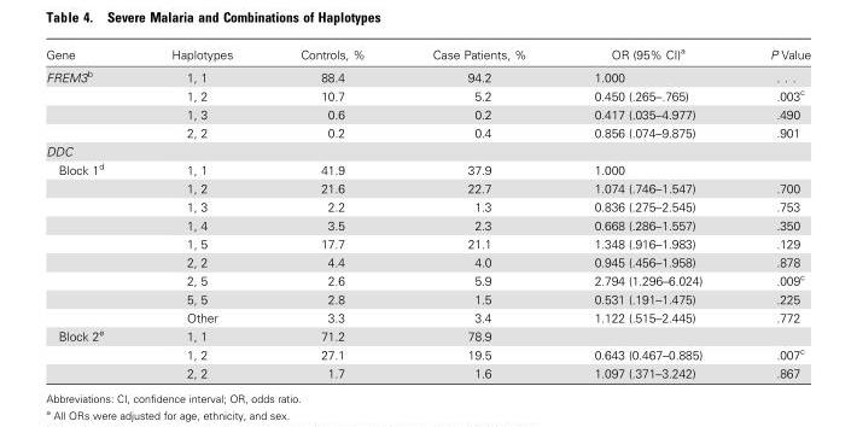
<table><thead><tr><td>Gene</td><td>Haplotypes</td><td>Controls, %</td><td>Case Patients, %</td><td>OR (95% CI)<sup>a</sup></td><td>P Value</td></tr></thead><tbody><tr><td rowspan="4">FREM3<sup>b</sup></td><td>1, 1</td><td>88.4</td><td>94.2</td><td>1.000</td><td>. . .</td></tr><tr><td>1, 2</td><td>10.7</td><td>5.2</td><td>0.450 (.265–.765)</td><td>.003<sup>c</sup></td></tr><tr><td>1, 3</td><td>0.6</td><td>0.2</td><td>0.417 (.035–4.977)</td><td>.490</td></tr><tr><td>2, 2</td><td>0.2</td><td>0.4</td><td>0.856 (.074–9.875)</td><td>.901</td></tr><tr><td colspan="6">DDC</td></tr><tr><td rowspan="9">Block 1<sup>d</sup></td><td>1, 1</td><td>41.9</td><td>37.9</td><td>1.000</td><td></td></tr><tr><td>1, 2</td><td>21.6</td><td>22.7</td><td>1.074 (.746–1.547)</td><td>.700</td></tr><tr><td>1, 3</td><td>2.2</td><td>1.3</td><td>0.836 (.275–2.545)</td><td>.753</td></tr><tr><td>1, 4</td><td>3.5</td><td>2.3</td><td>0.668 (.286–1.557)</td><td>.350</td></tr><tr><td>1, 5</td><td>17.7</td><td>21.1</td><td>1.348 (.916–1.983)</td><td>.129</td></tr><tr><td>2, 2</td><td>4.4</td><td>4.0</td><td>0.945 (.456–1.958)</td><td>.878</td></tr><tr><td>2, 5</td><td>2.6</td><td>5.9</td><td>2.794 (1.296–6.024)</td><td>.009<sup>c</sup></td></tr><tr><td>5, 5</td><td>2.8</td><td>1.5</td><td>0.531 (.191–1.475)</td><td>.225</td></tr><tr><td>Other</td><td>3.3</td><td>3.4</td><td>1.122 (.515–2.445)</td><td>.772</td></tr><tr><td rowspan="3">Block 2<sup>e</sup></td><td>1, 1</td><td>71.2</td><td>78.9</td><td></td><td></td></tr><tr><td>1, 2</td><td>27.1</td><td>19.5</td><td>0.643 (0.467–0.885)</td><td>.007<sup>c</sup></td></tr><tr><td>2, 2</td><td>1.7</td><td>1.6</td><td>1.097 (.371–3.242)</td><td>.867</td></tr></tbody></table>